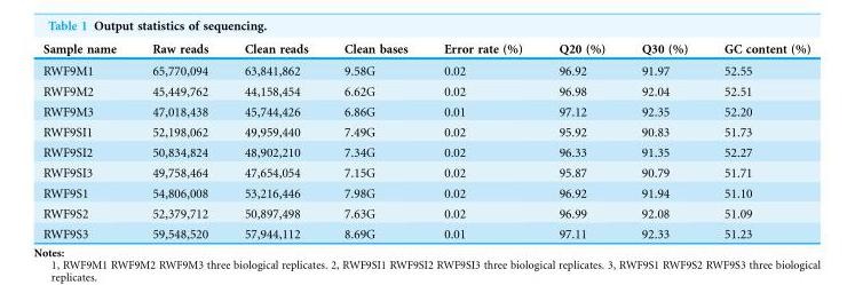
<table><thead><tr><td>Sample name</td><td>Raw reads</td><td>Clean reads</td><td>Clean bases</td><td>Error rate (%)</td><td>Q20 (%)</td><td>Q30 (%)</td><td>GC content (%)</td></tr></thead><tbody><tr><td>RWF9M1</td><td>65,770,094</td><td>63,841,862</td><td>9.58G</td><td>0.02</td><td>96.92</td><td>91.97</td><td>52.55</td></tr><tr><td>RWF9M2</td><td>45,449,762</td><td>44,158,454</td><td>6.62G</td><td>0.02</td><td>96.98</td><td>92.04</td><td>52.51</td></tr><tr><td>RWF9M3</td><td>47,018,438</td><td>45,744,426</td><td>6.86G</td><td>0.01</td><td>97.12</td><td>92.35</td><td>52.20</td></tr><tr><td>RWF9SI1</td><td>52,198,062</td><td>49,959,440</td><td>7.49G</td><td>0.02</td><td>95.92</td><td>90.83</td><td>51.73</td></tr><tr><td>RWF9SI2</td><td>50,834,824</td><td>48,902,210</td><td>7.34G</td><td>0.02</td><td>96.33</td><td>91.35</td><td>52.27</td></tr><tr><td>RWF9SI3</td><td>49,758,464</td><td>47,654,054</td><td>7.15G</td><td>0.02</td><td>95.87</td><td>90.79</td><td>51.71</td></tr><tr><td>RWF9S1</td><td>54,806,008</td><td>53,216,446</td><td>7.98G</td><td>0.02</td><td>96.92</td><td>91.94</td><td>51.10</td></tr><tr><td>RWF9S2</td><td>52,379,712</td><td>50,897,498</td><td>7.63G</td><td>0.02</td><td>96.99</td><td>92.08</td><td>51.09</td></tr><tr><td>RWF9S3</td><td>59,548,520</td><td>57,944,112</td><td>8.69G</td><td>0.01</td><td>97.11</td><td>92.33</td><td>51.23</td></tr></tbody></table>